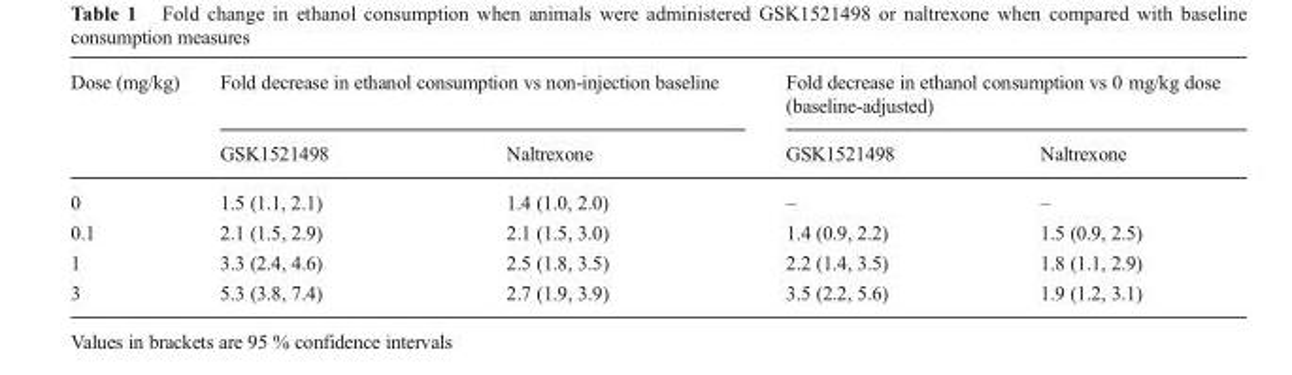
<table><thead><tr><td rowspan="2">Dose (mg/kg)</td><td colspan="2">Fold decrease in ethanol consumption vs non-injection baseline</td><td colspan="2">Fold decrease in ethanol consumption vs 0 mg/kg dose (baseline-adjusted)</td></tr><tr><td>GSK1521498</td><td>Naltrexone</td><td>GSK1521498</td><td>Naltrexone</td></tr></thead><tbody><tr><td>0</td><td>1.5 (1.1, 2.1)</td><td>1.4 (1.0, 2.0)</td><td>–</td><td>–</td></tr><tr><td>0.1</td><td>2.1 (1.5, 2.9)</td><td>2.1 (1.5, 3.0)</td><td>1.4 (0.9, 2.2)</td><td>1.5 (0.9, 2.5)</td></tr><tr><td>1</td><td>3.3 (2.4, 4.6)</td><td>2.5 (1.8, 3.5)</td><td>2.2 (1.4, 3.5)</td><td>1.8 (1.1, 2.9)</td></tr><tr><td>3</td><td>5.3 (3.8, 7.4)</td><td>2.7 (1.9, 3.9)</td><td>3.5 (2.2, 5.6)</td><td>1.9 (1.2, 3.1)</td></tr></tbody></table>